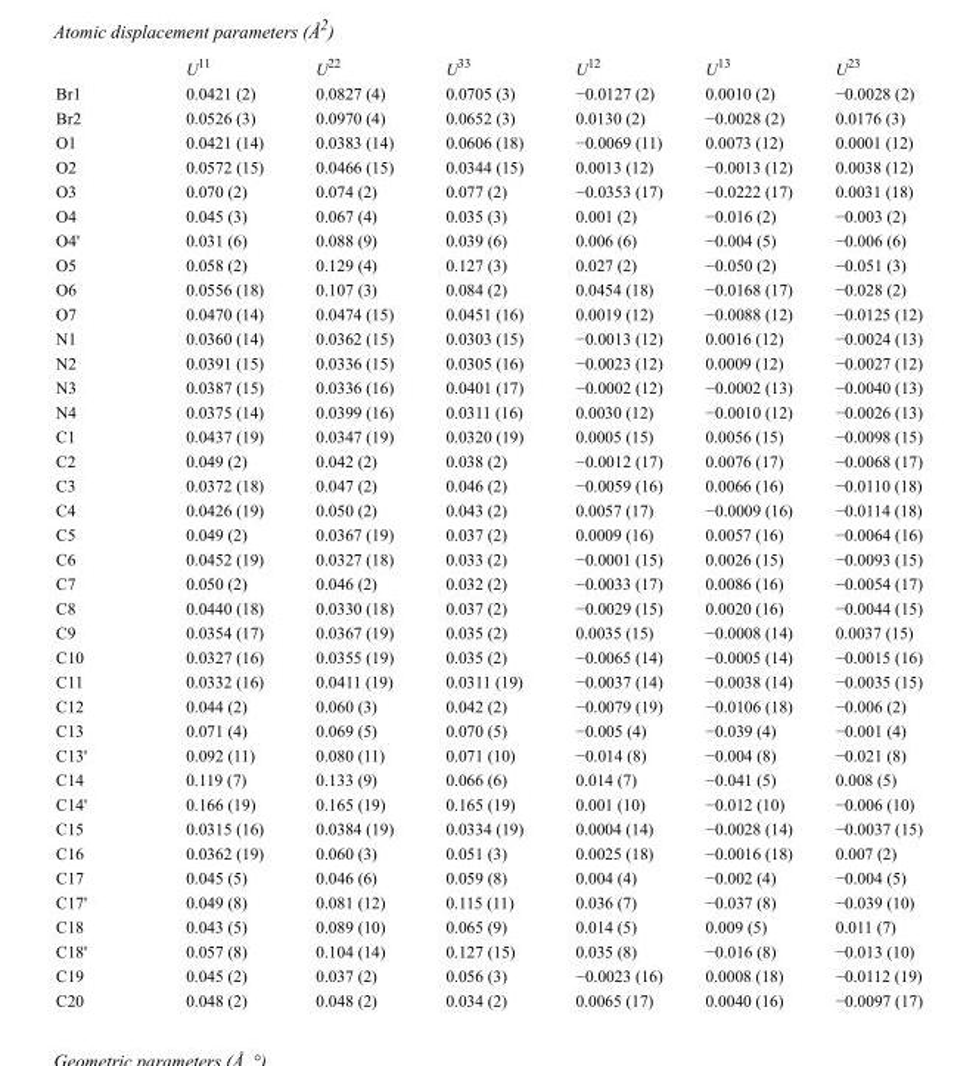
<table><thead><tr><td></td><td>U<sup>11</sup></td><td>U<sup>22</sup></td><td>U<sup>33</sup></td><td>U<sup>12</sup></td><td>U<sup>13</sup></td><td>U<sup>23</sup></td></tr></thead><tbody><tr><td>Br1</td><td>0.0421 (2)</td><td>0.0827 (4)</td><td>0.0705 (3)</td><td>−0.0127 (2)</td><td>0.0010 (2)</td><td>−0.0028 (2)</td></tr><tr><td>Br2</td><td>0.0526 (3)</td><td>0.0970 (4)</td><td>0.0652 (3)</td><td>0.0130 (2)</td><td>−0.0028 (2)</td><td>0.0176 (3)</td></tr><tr><td>O1</td><td>0.0421 (14)</td><td>0.0383 (14)</td><td>0.0606 (18)</td><td>−0.0069 (11)</td><td>0.0073 (12)</td><td>0.0001 (12)</td></tr><tr><td>O2</td><td>0.0572 (15)</td><td>0.0466 (15)</td><td>0.0344 (15)</td><td>0.0013 (12)</td><td>−0.0013 (12)</td><td>0.0038 (12)</td></tr><tr><td>O3</td><td>0.070 (2)</td><td>0.074 (2)</td><td>0.077 (2)</td><td>−0.0353 (17)</td><td>−0.0222 (17)</td><td>0.0031 (18)</td></tr><tr><td>O4</td><td>0.045 (3)</td><td>0.067 (4)</td><td>0.035 (3)</td><td>0.001 (2)</td><td>−0.016 (2)</td><td>−0.003 (2)</td></tr><tr><td>O4&#x27;</td><td>0.031 (6)</td><td>0.088 (9)</td><td>0.039 (6)</td><td>0.006 (6)</td><td>−0.004 (5)</td><td>−0.006 (6)</td></tr><tr><td>O5</td><td>0.058 (2)</td><td>0.129 (4)</td><td>0.127 (3)</td><td>0.027 (2)</td><td>−0.050 (2)</td><td>−0.051 (3)</td></tr><tr><td>O6</td><td>0.0556 (18)</td><td>0.107 (3)</td><td>0.084 (2)</td><td>0.0454 (18)</td><td>−0.0168 (17)</td><td>−0.028 (2)</td></tr><tr><td>O7</td><td>0.0470 (14)</td><td>0.0474 (15)</td><td>0.0451 (16)</td><td>0.0019 (12)</td><td>−0.0088 (12)</td><td>−0.0125 (12)</td></tr><tr><td>N1</td><td>0.0360 (14)</td><td>0.0362 (15)</td><td>0.0303 (15)</td><td>−0.0013 (12)</td><td>0.0016 (12)</td><td>−0.0024 (13)</td></tr><tr><td>N2</td><td>0.0391 (15)</td><td>0.0336 (15)</td><td>0.0305 (16)</td><td>−0.0023 (12)</td><td>0.0009 (12)</td><td>−0.0027 (12)</td></tr><tr><td>N3</td><td>0.0387 (15)</td><td>0.0336 (16)</td><td>0.0401 (17)</td><td>−0.0002 (12)</td><td>−0.0002 (13)</td><td>−0.0040 (13)</td></tr><tr><td>N4</td><td>0.0375 (14)</td><td>0.0399 (16)</td><td>0.0311 (16)</td><td>0.0030 (12)</td><td>−0.0010 (12)</td><td>−0.0026 (13)</td></tr><tr><td>C1</td><td>0.0437 (19)</td><td>0.0347 (19)</td><td>0.0320 (19)</td><td>0.0005 (15)</td><td>0.0056 (15)</td><td>−0.0098 (15)</td></tr><tr><td>C2</td><td>0.049 (2)</td><td>0.042 (2)</td><td>0.038 (2)</td><td>−0.0012 (17)</td><td>0.0076 (17)</td><td>−0.0068 (17)</td></tr><tr><td>C3</td><td>0.0372 (18)</td><td>0.047 (2)</td><td>0.046 (2)</td><td>−0.0059 (16)</td><td>0.0066 (16)</td><td>−0.0110 (18)</td></tr><tr><td>C4</td><td>0.0426 (19)</td><td>0.050 (2)</td><td>0.043 (2)</td><td>0.0057 (17)</td><td>−0.0009 (16)</td><td>−0.0114 (18)</td></tr><tr><td>C5</td><td>0.049 (2)</td><td>0.0367 (19)</td><td>0.037 (2)</td><td>0.0009 (16)</td><td>0.0057 (16)</td><td>−0.0064 (16)</td></tr><tr><td>C6</td><td>0.0452 (19)</td><td>0.0327 (18)</td><td>0.033 (2)</td><td>−0.0001 (15)</td><td>0.0026 (15)</td><td>−0.0093 (15)</td></tr><tr><td>C7</td><td>0.050 (2)</td><td>0.046 (2)</td><td>0.032 (2)</td><td>−0.0033 (17)</td><td>0.0086 (16)</td><td>−0.0054 (17)</td></tr><tr><td>C8</td><td>0.0440 (18)</td><td>0.0330 (18)</td><td>0.037 (2)</td><td>−0.0029 (15)</td><td>0.0020 (16)</td><td>−0.0044 (15)</td></tr><tr><td>C9</td><td>0.0354 (17)</td><td>0.0367 (19)</td><td>0.035 (2)</td><td>0.0035 (15)</td><td>−0.0008 (14)</td><td>0.0037 (15)</td></tr><tr><td>C10</td><td>0.0327 (16)</td><td>0.0355 (19)</td><td>0.035 (2)</td><td>−0.0065 (14)</td><td>−0.0005 (14)</td><td>−0.0015 (16)</td></tr><tr><td>C11</td><td>0.0332 (16)</td><td>0.0411 (19)</td><td>0.0311 (19)</td><td>−0.0037 (14)</td><td>−0.0038 (14)</td><td>−0.0035 (15)</td></tr><tr><td>C12</td><td>0.044 (2)</td><td>0.060 (3)</td><td>0.042 (2)</td><td>−0.0079 (19)</td><td>−0.0106 (18)</td><td>−0.006 (2)</td></tr><tr><td>C13</td><td>0.071 (4)</td><td>0.069 (5)</td><td>0.070 (5)</td><td>−0.005 (4)</td><td>−0.039 (4)</td><td>−0.001 (4)</td></tr><tr><td>C13&#x27;</td><td>0.092 (11)</td><td>0.080 (11)</td><td>0.071 (10)</td><td>−0.014 (8)</td><td>−0.004 (8)</td><td>−0.021 (8)</td></tr><tr><td>C14</td><td>0.119 (7)</td><td>0.133 (9)</td><td>0.066 (6)</td><td>0.014 (7)</td><td>−0.041 (5)</td><td>0.008 (5)</td></tr><tr><td>C14&#x27;</td><td>0.166 (19)</td><td>0.165 (19)</td><td>0.165 (19)</td><td>0.001 (10)</td><td>−0.012 (10)</td><td>−0.006 (10)</td></tr><tr><td>C15</td><td>0.0315 (16)</td><td>0.0384 (19)</td><td>0.0334 (19)</td><td>0.0004 (14)</td><td>−0.0028 (14)</td><td>−0.0037 (15)</td></tr><tr><td>C16</td><td>0.0362 (19)</td><td>0.060 (3)</td><td>0.051 (3)</td><td>0.0025 (18)</td><td>−0.0016 (18)</td><td>0.007 (2)</td></tr><tr><td>C17</td><td>0.045 (5)</td><td>0.046 (6)</td><td>0.059 (8)</td><td>0.004 (4)</td><td>−0.002 (4)</td><td>−0.004 (5)</td></tr><tr><td>C17&#x27;</td><td>0.049 (8)</td><td>0.081 (12)</td><td>0.115 (11)</td><td>0.036 (7)</td><td>−0.037 (8)</td><td>−0.039 (10)</td></tr><tr><td>C18</td><td>0.043 (5)</td><td>0.089 (10)</td><td>0.065 (9)</td><td>0.014 (5)</td><td>0.009 (5)</td><td>0.011 (7)</td></tr><tr><td>C18&#x27;</td><td>0.057 (8)</td><td>0.104 (14)</td><td>0.127 (15)</td><td>0.035 (8)</td><td>−0.016 (8)</td><td>−0.013 (10)</td></tr><tr><td>C19</td><td>0.045 (2)</td><td>0.037 (2)</td><td>0.056 (3)</td><td>−0.0023 (16)</td><td>0.0008 (18)</td><td>−0.0112 (19)</td></tr><tr><td>C20</td><td>0.048 (2)</td><td>0.048 (2)</td><td>0.034 (2)</td><td>0.0065 (17)</td><td>0.0040 (16)</td><td>−0.0097 (17)</td></tr></tbody></table>